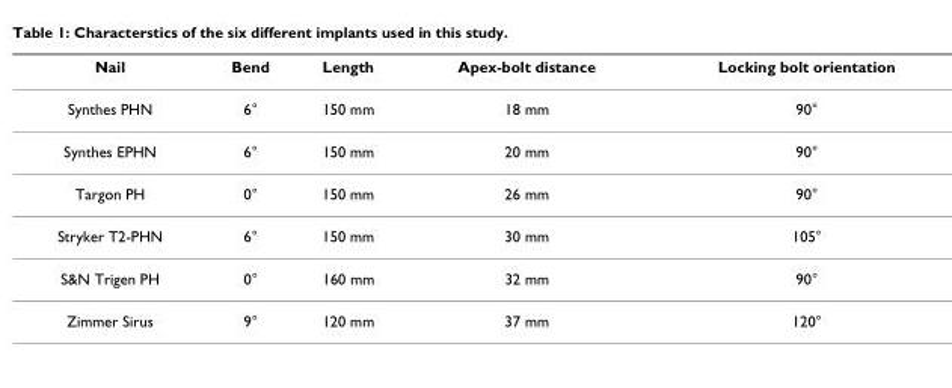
<table><thead><tr><td>Nail</td><td>Bend</td><td>Length</td><td>Apex-bolt distance</td><td>Locking bolt orientation</td></tr></thead><tbody><tr><td>Synthes PHN</td><td>6°</td><td>150 mm</td><td>18 mm</td><td>90°</td></tr><tr><td>Synthes EPHN</td><td>6°</td><td>150 mm</td><td>20 mm</td><td>90°</td></tr><tr><td>Targon PH</td><td>0°</td><td>150 mm</td><td>26 mm</td><td>90°</td></tr><tr><td>Stryker T2-PHN</td><td>6°</td><td>150 mm</td><td>30 mm</td><td>105°</td></tr><tr><td>S&amp;N Trigen PH</td><td>0°</td><td>160 mm</td><td>32 mm</td><td>90°</td></tr><tr><td>Zimmer Sirus</td><td>9°</td><td>120 mm</td><td>37 mm</td><td>120°</td></tr></tbody></table>